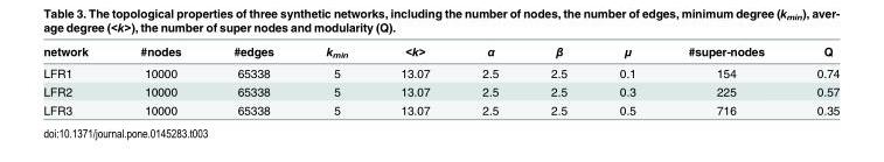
<table><thead><tr><td>network</td><td>#nodes</td><td>#edges</td><td>k<sub>min</sub></td><td>&lt;k&gt;</td><td>α</td><td>β</td><td>μ</td><td>#super-nodes</td><td>Q</td></tr></thead><tbody><tr><td>LFR1</td><td>10000</td><td>65338</td><td>5</td><td>13.07</td><td>2.5</td><td>2.5</td><td>0.1</td><td>154</td><td>0.74</td></tr><tr><td>LFR2</td><td>10000</td><td>65338</td><td>5</td><td>13.07</td><td>2.5</td><td>2.5</td><td>0.3</td><td>225</td><td>0.57</td></tr><tr><td>LFR3</td><td>10000</td><td>65338</td><td>5</td><td>13.07</td><td>2.5</td><td>2.5</td><td>0.5</td><td>716</td><td>0.35</td></tr></tbody></table>